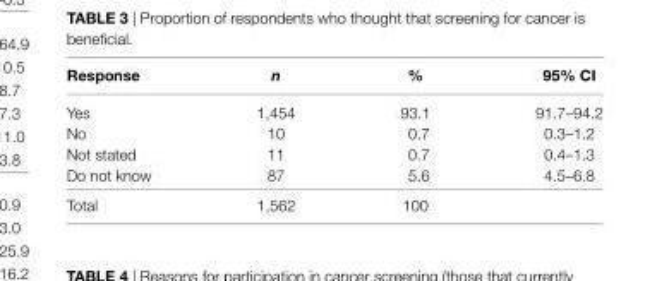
<table><thead><tr><td>response</td><td>n</td><td>%</td><td>95% ci</td></tr></thead><tbody><tr><td>Yes</td><td>1,454</td><td>93.1</td><td>91.7–94.2</td></tr><tr><td>No</td><td>10</td><td>0.7</td><td>0.3–1.2</td></tr><tr><td>Not stated</td><td>11</td><td>0.7</td><td>0.4–1.3</td></tr><tr><td>Do not know</td><td>87</td><td>5.6</td><td>4.5–6.8</td></tr><tr><td>Total</td><td>1,562</td><td>100</td><td></td></tr></tbody></table>